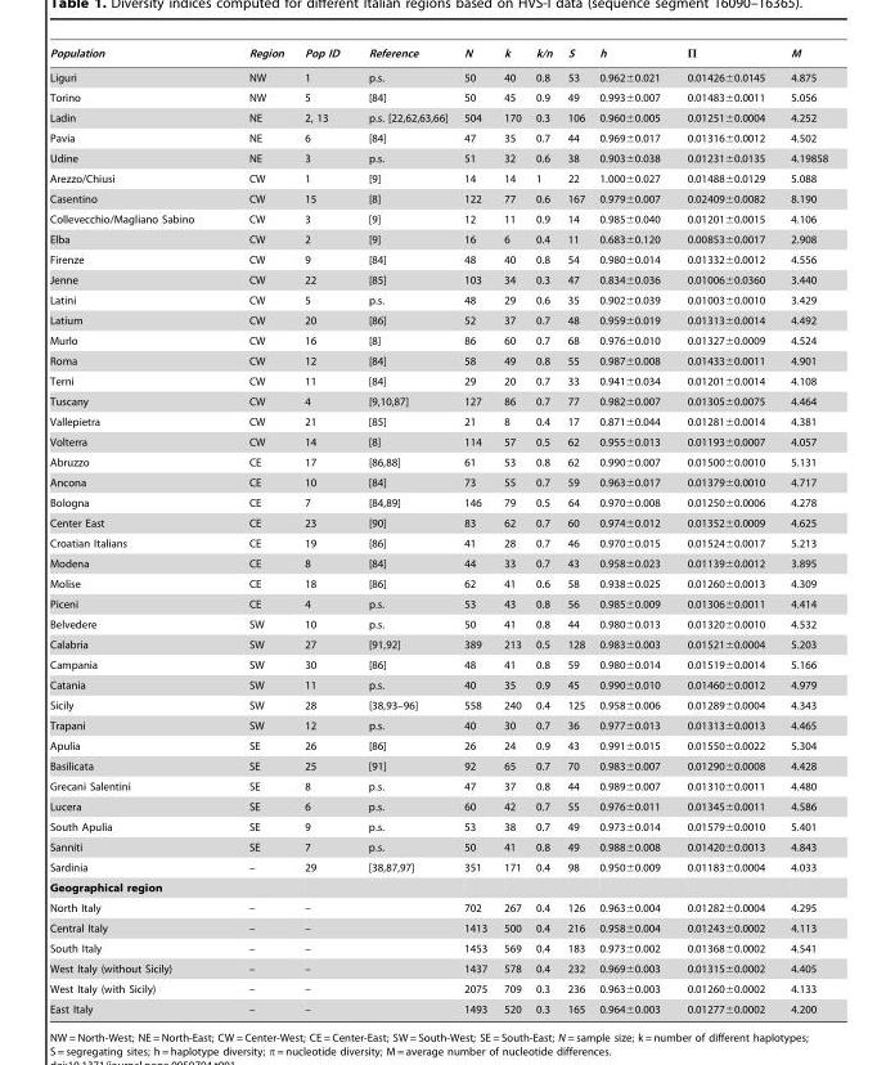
<table><thead><tr><td>Population</td><td>Region</td><td>Pop ID</td><td>Reference</td><td>N</td><td>k</td><td>k/n</td><td>S</td><td>h</td><td>Π</td><td>M</td></tr></thead><tbody><tr><td>Liguri</td><td>NW</td><td>1</td><td>p.s.</td><td>50</td><td>40</td><td>0.8</td><td>53</td><td>0.962±0.021</td><td>0.01426±0.0145</td><td>4.875</td></tr><tr><td>Torino</td><td>NW</td><td>5</td><td>[84]</td><td>50</td><td>45</td><td>0.9</td><td>49</td><td>0.993±0.007</td><td>0.01483±0.0011</td><td>5.056</td></tr><tr><td>Ladin</td><td>NE</td><td>2, 13</td><td>p.s. [22,62,63,66]</td><td>504</td><td>170</td><td>0.3</td><td>106</td><td>0.960±0.005</td><td>0.01251±0.0004</td><td>4.252</td></tr><tr><td>Pavia</td><td>NE</td><td>6</td><td>[84]</td><td>47</td><td>35</td><td>0.7</td><td>44</td><td>0.969±0.017</td><td>0.01316±0.0012</td><td>4.502</td></tr><tr><td>Udine</td><td>NE</td><td>3</td><td>p.s.</td><td>51</td><td>32</td><td>0.6</td><td>38</td><td>0.903±0.038</td><td>0.01231±0.0135</td><td>4.19858</td></tr><tr><td>Arezzo/Chiusi</td><td>CW</td><td>1</td><td>[9]</td><td>14</td><td>14</td><td>1</td><td>22</td><td>1.000±0.027</td><td>0.01488±0.0129</td><td>5.088</td></tr><tr><td>Casentino</td><td>CW</td><td>15</td><td>[8]</td><td>122</td><td>77</td><td>0.6</td><td>167</td><td>0.979±0.007</td><td>0.02409±0.0082</td><td>8.190</td></tr><tr><td>Collevecchio/Magliano Sabino</td><td>CW</td><td>3</td><td>[9]</td><td>12</td><td>11</td><td>0.9</td><td>14</td><td>0.985±0.040</td><td>0.01201±0.0015</td><td>4.106</td></tr><tr><td>Elba</td><td>CW</td><td>2</td><td>[9]</td><td>16</td><td>6</td><td>0.4</td><td>11</td><td>0.683±0.120</td><td>0.00853±0.0017</td><td>2.908</td></tr><tr><td>Firenze</td><td>CW</td><td>9</td><td>[84]</td><td>48</td><td>40</td><td>0.8</td><td>54</td><td>0.980±0.014</td><td>0.01332±0.0012</td><td>4.556</td></tr><tr><td>Jenne</td><td>CW</td><td>22</td><td>[85]</td><td>103</td><td>34</td><td>0.3</td><td>47</td><td>0.834±0.036</td><td>0.01006±0.0360</td><td>3.440</td></tr><tr><td>Latini</td><td>CW</td><td>5</td><td>p.s.</td><td>48</td><td>29</td><td>0.6</td><td>35</td><td>0.902±0.039</td><td>0.01003±0.0010</td><td>3.429</td></tr><tr><td>Latium</td><td>CW</td><td>20</td><td>[86]</td><td>52</td><td>37</td><td>0.7</td><td>48</td><td>0.959±0.019</td><td>0.01313±0.0014</td><td>4.492</td></tr><tr><td>Murlo</td><td>CW</td><td>16</td><td>[8]</td><td>86</td><td>60</td><td>0.7</td><td>68</td><td>0.976±0.010</td><td>0.01327±0.0009</td><td>4.524</td></tr><tr><td>Roma</td><td>CW</td><td>12</td><td>[84]</td><td>58</td><td>49</td><td>0.8</td><td>55</td><td>0.987±0.008</td><td>0.01433±0.0011</td><td>4.901</td></tr><tr><td>Terni</td><td>CW</td><td>11</td><td>[84]</td><td>29</td><td>20</td><td>0.7</td><td>33</td><td>0.941±0.034</td><td>0.01201±0.0014</td><td>4.108</td></tr><tr><td>Tuscany</td><td>CW</td><td>4</td><td>[9,10,87]</td><td>127</td><td>86</td><td>0.7</td><td>77</td><td>0.982±0.007</td><td>0.01305±0.0075</td><td>4.464</td></tr><tr><td>Vallepietra</td><td>CW</td><td>21</td><td>[85]</td><td>21</td><td>8</td><td>0.4</td><td>17</td><td>0.871±0.044</td><td>0.01281±0.0014</td><td>4.381</td></tr><tr><td>Volterra</td><td>CW</td><td>14</td><td>[8]</td><td>114</td><td>57</td><td>0.5</td><td>62</td><td>0.955±0.013</td><td>0.01193±0.0007</td><td>4.057</td></tr><tr><td>Abruzzo</td><td>CE</td><td>17</td><td>[86,88]</td><td>61</td><td>53</td><td>0.8</td><td>62</td><td>0.990±0.007</td><td>0.01500±0.0010</td><td>5.131</td></tr><tr><td>Ancona</td><td>CE</td><td>10</td><td>[84]</td><td>73</td><td>55</td><td>0.7</td><td>59</td><td>0.963±0.017</td><td>0.01379±0.0010</td><td>4.717</td></tr><tr><td>Bologna</td><td>CE</td><td>7</td><td>[84,89]</td><td>146</td><td>79</td><td>0.5</td><td>64</td><td>0.970±0.008</td><td>0.01250±0.0006</td><td>4.278</td></tr><tr><td>Center East</td><td>CE</td><td>23</td><td>[90]</td><td>83</td><td>62</td><td>0.7</td><td>60</td><td>0.974±0.012</td><td>0.01352±0.0009</td><td>4.625</td></tr><tr><td>Croatian Italians</td><td>CE</td><td>19</td><td>[86]</td><td>41</td><td>28</td><td>0.7</td><td>46</td><td>0.970±0.015</td><td>0.01524±0.0017</td><td>5.213</td></tr><tr><td>Modena</td><td>CE</td><td>8</td><td>[84]</td><td>44</td><td>33</td><td>0.7</td><td>43</td><td>0.958±0.023</td><td>0.01139±0.0012</td><td>3.895</td></tr><tr><td>Molise</td><td>CE</td><td>18</td><td>[86]</td><td>62</td><td>41</td><td>0.6</td><td>58</td><td>0.938±0.025</td><td>0.01260±0.0013</td><td>4.309</td></tr><tr><td>Piceni</td><td>CE</td><td>4</td><td>p.s.</td><td>53</td><td>43</td><td>0.8</td><td>56</td><td>0.985±0.009</td><td>0.01306±0.0011</td><td>4.414</td></tr><tr><td>Belvedere</td><td>SW</td><td>10</td><td>p.s.</td><td>50</td><td>41</td><td>0.8</td><td>44</td><td>0.980±0.013</td><td>0.01320±0.0010</td><td>4.532</td></tr><tr><td>Calabria</td><td>SW</td><td>27</td><td>[91,92]</td><td>389</td><td>213</td><td>0.5</td><td>128</td><td>0.983±0.003</td><td>0.01521±0.0004</td><td>5.203</td></tr><tr><td>Campania</td><td>SW</td><td>30</td><td>[86]</td><td>48</td><td>41</td><td>0.8</td><td>59</td><td>0.980±0.014</td><td>0.01519±0.0014</td><td>5.166</td></tr><tr><td>Catania</td><td>SW</td><td>11</td><td>p.s.</td><td>40</td><td>35</td><td>0.9</td><td>45</td><td>0.990±0.010</td><td>0.01460±0.0012</td><td>4.979</td></tr><tr><td>Sicily</td><td>SW</td><td>28</td><td>[38,93–96]</td><td>558</td><td>240</td><td>0.4</td><td>125</td><td>0.958±0.006</td><td>0.01289±0.0004</td><td>4.343</td></tr><tr><td>Trapani</td><td>SW</td><td>12</td><td>p.s.</td><td>40</td><td>30</td><td>0.7</td><td>36</td><td>0.977±0.013</td><td>0.01313±0.0013</td><td>4.465</td></tr><tr><td>Apulia</td><td>SE</td><td>26</td><td>[86]</td><td>26</td><td>24</td><td>0.9</td><td>43</td><td>0.991±0.015</td><td>0.01550±0.0022</td><td>5.304</td></tr><tr><td>Basilicata</td><td>SE</td><td>25</td><td>[91]</td><td>92</td><td>65</td><td>0.7</td><td>70</td><td>0.983±0.007</td><td>0.01290±0.0008</td><td>4.428</td></tr><tr><td>Grecani Salentini</td><td>SE</td><td>8</td><td>p.s.</td><td>47</td><td>37</td><td>0.8</td><td>44</td><td>0.989±0.007</td><td>0.01310±0.0011</td><td>4.480</td></tr><tr><td>Lucera</td><td>SE</td><td>6</td><td>p.s.</td><td>60</td><td>42</td><td>0.7</td><td>55</td><td>0.976±0.011</td><td>0.01345±0.0011</td><td>4.586</td></tr><tr><td>South Apulia</td><td>SE</td><td>9</td><td>p.s.</td><td>53</td><td>38</td><td>0.7</td><td>49</td><td>0.973±0.014</td><td>0.01579±0.0010</td><td>5.401</td></tr><tr><td>Sanniti</td><td>SE</td><td>7</td><td>p.s.</td><td>50</td><td>41</td><td>0.8</td><td>49</td><td>0.988±0.008</td><td>0.01420±0.0013</td><td>4.843</td></tr><tr><td>Sardinia</td><td>–</td><td>29</td><td>[38,87,97]</td><td>351</td><td>171</td><td>0.4</td><td>98</td><td>0.950±0.009</td><td>0.01183±0.0004</td><td>4.033</td></tr><tr><td colspan="11">Geographical region</td></tr><tr><td>North Italy</td><td>–</td><td>–</td><td></td><td>702</td><td>267</td><td>0.4</td><td>126</td><td>0.963±0.004</td><td>0.01282±0.0004</td><td>4.295</td></tr><tr><td>Central Italy</td><td>–</td><td>–</td><td></td><td>1413</td><td>500</td><td>0.4</td><td>216</td><td>0.958±0.004</td><td>0.01243±0.0002</td><td>4.113</td></tr><tr><td>South Italy</td><td>–</td><td>–</td><td></td><td>1453</td><td>569</td><td>0.4</td><td>183</td><td>0.973±0.002</td><td>0.01368±0.0002</td><td>4.541</td></tr><tr><td>West Italy (without Sicily)</td><td>–</td><td>–</td><td></td><td>1437</td><td>578</td><td>0.4</td><td>232</td><td>0.969±0.003</td><td>0.01315±0.0002</td><td>4.405</td></tr><tr><td>West Italy (with Sicily)</td><td>–</td><td>–</td><td></td><td>2075</td><td>709</td><td>0.3</td><td>236</td><td>0.963±0.003</td><td>0.01260±0.0002</td><td>4.133</td></tr><tr><td>East Italy</td><td>–</td><td>–</td><td></td><td>1493</td><td>520</td><td>0.3</td><td>165</td><td>0.964±0.003</td><td>0.01277±0.0002</td><td>4.200</td></tr></tbody></table>